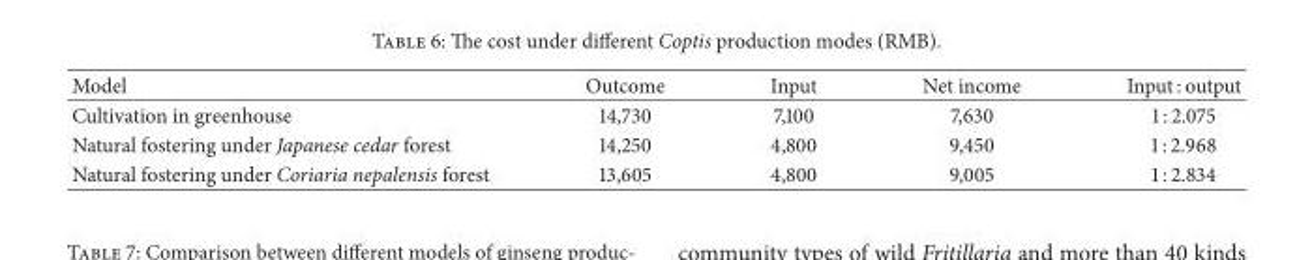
<table><thead><tr><td>Model</td><td>Outcome</td><td>Input</td><td>Net income</td><td>Input : output</td></tr></thead><tbody><tr><td>Cultivation in greenhouse</td><td>14,730</td><td>7,100</td><td>7,630</td><td>1 : 2.075</td></tr><tr><td>Natural fostering under Japanese cedar forest</td><td>14,250</td><td>4,800</td><td>9,450</td><td>1 : 2.968</td></tr><tr><td>Natural fostering under Coriaria nepalensis forest</td><td>13,605</td><td>4,800</td><td>9,005</td><td>1 : 2.834</td></tr></tbody></table>